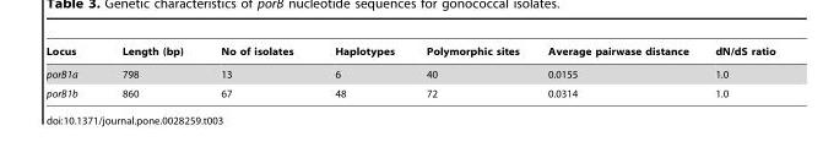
<table><thead><tr><td>Locus</td><td>Length (bp)</td><td>No of isolates</td><td>Haplotypes</td><td>Polymorphic sites</td><td>Average pairwase distance</td><td>dN/dS ratio</td></tr></thead><tbody><tr><td>porB1a</td><td>798</td><td>13</td><td>6</td><td>40</td><td>0.0155</td><td>1.0</td></tr><tr><td>porB1b</td><td>860</td><td>67</td><td>48</td><td>72</td><td>0.0314</td><td>1.0</td></tr></tbody></table>